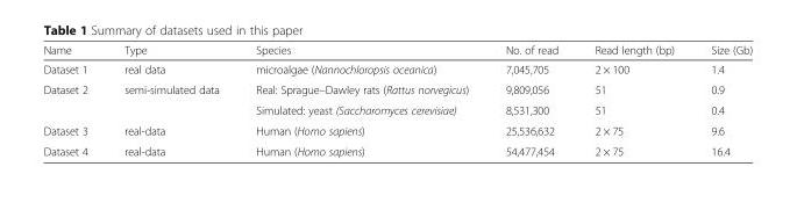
<table><thead><tr><td>Name</td><td>Type</td><td>Species</td><td>No. of read</td><td>Read length (bp)</td><td>Size (Gb)</td></tr></thead><tbody><tr><td>Dataset 1</td><td>real data</td><td>microalgae (Nannochloropsis oceanica)</td><td>7,045,705</td><td>2 × 100</td><td>1.4</td></tr><tr><td rowspan="2">Dataset 2</td><td>semi-simulated data</td><td>Real: Sprague–Dawley rats (Rattus norvegicus)</td><td>9,809,056</td><td>51</td><td>0.9</td></tr><tr><td></td><td>Simulated: yeast (Saccharomyces cerevisiae)</td><td>8,531,300</td><td>51</td><td>0.4</td></tr><tr><td>Dataset 3</td><td>real-data</td><td>Human (Homo sapiens)</td><td>25,536,632</td><td>2 × 75</td><td>9.6</td></tr><tr><td>Dataset 4</td><td>real-data</td><td>Human (Homo sapiens)</td><td>54,477,454</td><td>2 × 75</td><td>16.4</td></tr></tbody></table>